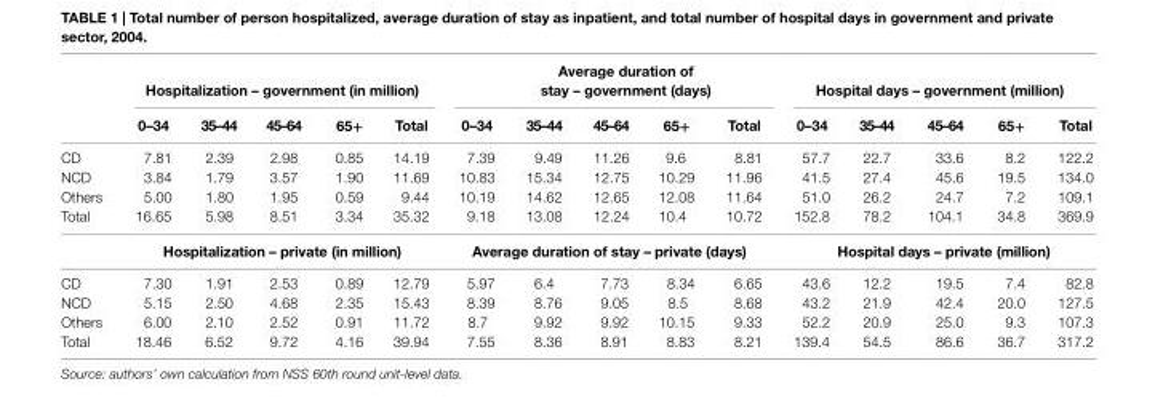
<table><thead><tr><td rowspan="2"></td><td colspan="5">hospitalization – government (in million)</td><td colspan="5">average duration of stay – government (days)</td><td colspan="5">hospital days – government (million)</td></tr><tr><td>0–34</td><td>35–44</td><td>45–64</td><td>65+</td><td>Total</td><td>0–34</td><td>35–44</td><td>45–64</td><td>65+</td><td>Total</td><td>0–34</td><td>35–44</td><td>45–64</td><td>65+</td><td>Total</td></tr></thead><tbody><tr><td>CD</td><td>7.81</td><td>2.39</td><td>2.98</td><td>0.85</td><td>14.19</td><td>7.39</td><td>9.49</td><td>11.26</td><td>9.6</td><td>8.81</td><td>57.7</td><td>22.7</td><td>33.6</td><td>8.2</td><td>122.2</td></tr><tr><td>NCD</td><td>3.84</td><td>1.79</td><td>3.57</td><td>1.90</td><td>11.69</td><td>10.83</td><td>15.34</td><td>12.75</td><td>10.29</td><td>11.96</td><td>41.5</td><td>27.4</td><td>45.6</td><td>19.5</td><td>134.0</td></tr><tr><td>Others</td><td>5.00</td><td>1.80</td><td>1.95</td><td>0.59</td><td>9.44</td><td>10.19</td><td>14.62</td><td>12.65</td><td>12.08</td><td>11.64</td><td>51.0</td><td>26.2</td><td>24.7</td><td>7.2</td><td>109.1</td></tr><tr><td rowspan="2">Total</td><td>16.65</td><td>5.98</td><td>8.51</td><td>3.34</td><td>35.32</td><td>9.18</td><td>13.08</td><td>12.24</td><td>10.4</td><td>10.72</td><td>152.8</td><td>78.2</td><td>104.1</td><td>34.8</td><td>369.9</td></tr><tr><td colspan="5">hospitalization – private (in million)</td><td colspan="5">average duration of stay – private (days)</td><td colspan="5">hospital days – private (million)</td></tr><tr><td>CD</td><td>7.30</td><td>1.91</td><td>2.53</td><td>0.89</td><td>12.79</td><td>5.97</td><td>6.4</td><td>7.73</td><td>8.34</td><td>6.65</td><td>43.6</td><td>12.2</td><td>19.5</td><td>7.4</td><td>82.8</td></tr><tr><td>NCD</td><td>5.15</td><td>2.50</td><td>4.68</td><td>2.35</td><td>15.43</td><td>8.39</td><td>8.76</td><td>9.05</td><td>8.5</td><td>8.68</td><td>43.2</td><td>21.9</td><td>42.4</td><td>20.0</td><td>127.5</td></tr><tr><td>Others</td><td>6.00</td><td>2.10</td><td>2.52</td><td>0.91</td><td>11.72</td><td>8.7</td><td>9.92</td><td>9.92</td><td>10.15</td><td>9.33</td><td>52.2</td><td>20.9</td><td>25.0</td><td>9.3</td><td>107.3</td></tr><tr><td>Total</td><td>18.46</td><td>6.52</td><td>9.72</td><td>4.16</td><td>39.94</td><td>7.55</td><td>8.36</td><td>8.91</td><td>8.83</td><td>8.21</td><td>139.4</td><td>54.5</td><td>86.6</td><td>36.7</td><td>317.2</td></tr></tbody></table>